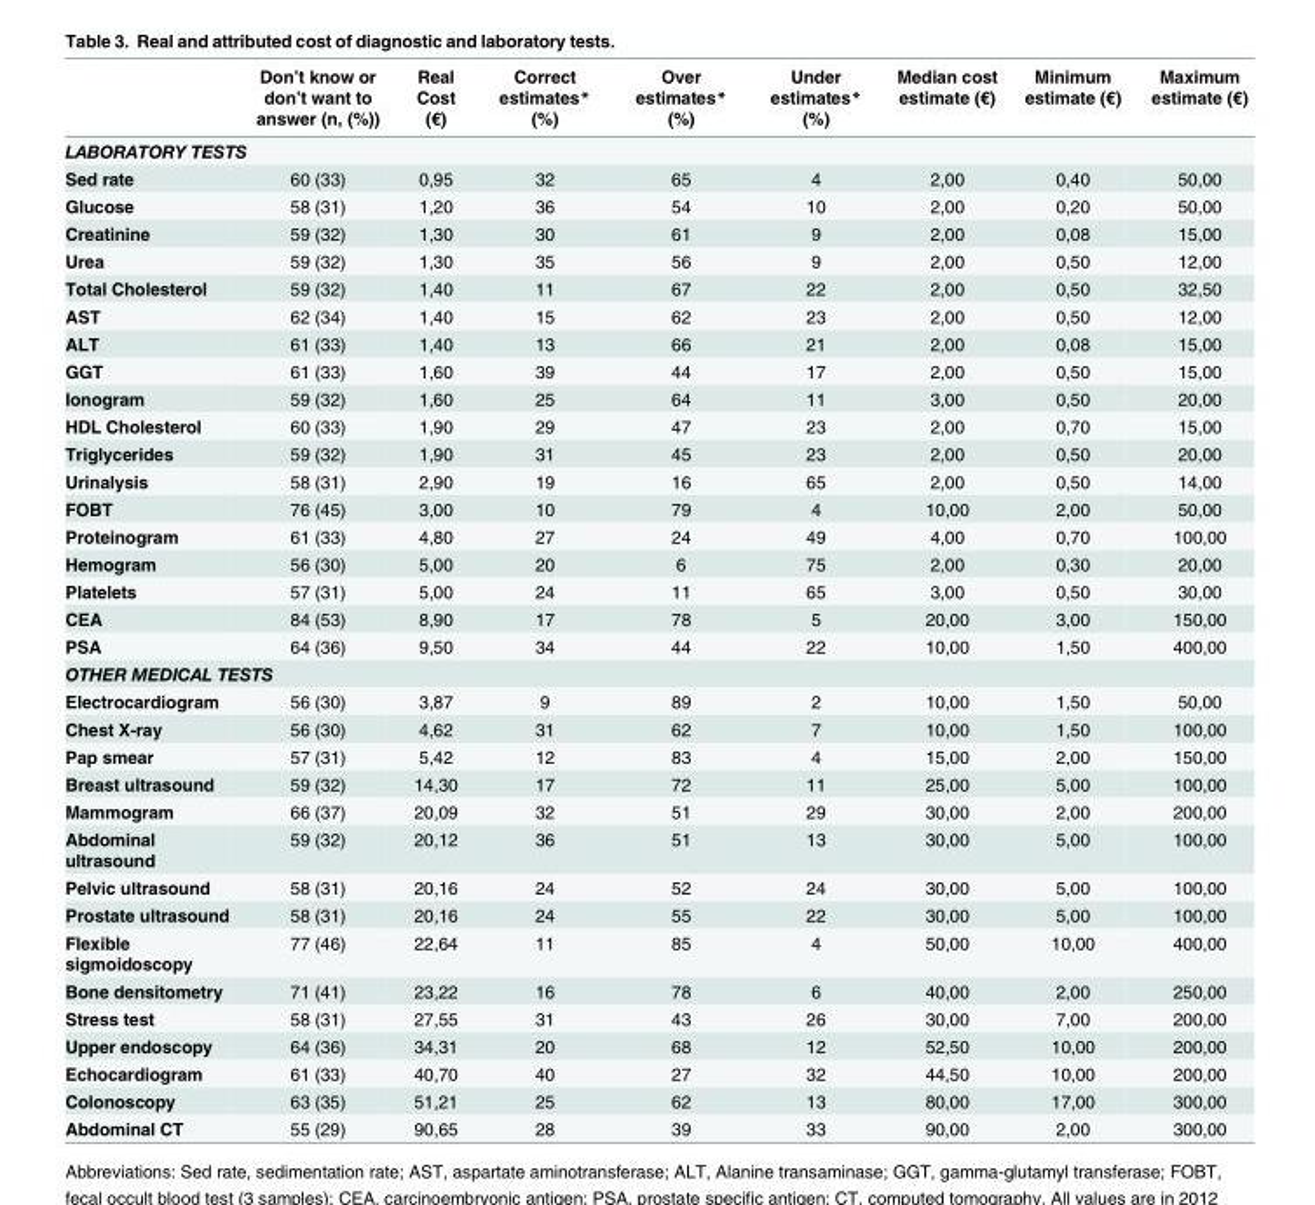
<table><thead><tr><td></td><td>Don’t know or don’t want to answer (n, (%))</td><td>Real Cost (€)</td><td>Correct estimates* (%)</td><td>Over estimates* (%)</td><td>Under estimates* (%)</td><td>Median cost estimate (€)</td><td>Minimum estimate (€)</td><td>Maximum estimate (€)</td></tr></thead><tbody><tr><td colspan="9">LABORATORY TESTS</td></tr><tr><td>Sed rate</td><td>60 (33)</td><td>0,95</td><td>32</td><td>65</td><td>4</td><td>2,00</td><td>0,40</td><td>50,00</td></tr><tr><td>Glucose</td><td>58 (31)</td><td>1,20</td><td>36</td><td>54</td><td>10</td><td>2,00</td><td>0,20</td><td>50,00</td></tr><tr><td>Creatinine</td><td>59 (32)</td><td>1,30</td><td>30</td><td>61</td><td>9</td><td>2,00</td><td>0,08</td><td>15,00</td></tr><tr><td>Urea</td><td>59 (32)</td><td>1,30</td><td>35</td><td>56</td><td>9</td><td>2,00</td><td>0,50</td><td>12,00</td></tr><tr><td>Total Cholesterol</td><td>59 (32)</td><td>1,40</td><td>11</td><td>67</td><td>22</td><td>2,00</td><td>0,50</td><td>32,50</td></tr><tr><td>AST</td><td>62 (34)</td><td>1,40</td><td>15</td><td>62</td><td>23</td><td>2,00</td><td>0,50</td><td>12,00</td></tr><tr><td>ALT</td><td>61 (33)</td><td>1,40</td><td>13</td><td>66</td><td>21</td><td>2,00</td><td>0,08</td><td>15,00</td></tr><tr><td>GGT</td><td>61 (33)</td><td>1,60</td><td>39</td><td>44</td><td>17</td><td>2,00</td><td>0,50</td><td>15,00</td></tr><tr><td>Ionogram</td><td>59 (32)</td><td>1,60</td><td>25</td><td>64</td><td>11</td><td>3,00</td><td>0,50</td><td>20,00</td></tr><tr><td>HDL Cholesterol</td><td>60 (33)</td><td>1,90</td><td>29</td><td>47</td><td>23</td><td>2,00</td><td>0,70</td><td>15,00</td></tr><tr><td>Triglycerides</td><td>59 (32)</td><td>1,90</td><td>31</td><td>45</td><td>23</td><td>2,00</td><td>0,50</td><td>20,00</td></tr><tr><td>Urinalysis</td><td>58 (31)</td><td>2,90</td><td>19</td><td>16</td><td>65</td><td>2,00</td><td>0,50</td><td>14,00</td></tr><tr><td>FOBT</td><td>76 (45)</td><td>3,00</td><td>10</td><td>79</td><td>4</td><td>10,00</td><td>2,00</td><td>50,00</td></tr><tr><td>Proteinogram</td><td>61 (33)</td><td>4,80</td><td>27</td><td>24</td><td>49</td><td>4,00</td><td>0,70</td><td>100,00</td></tr><tr><td>Hemogram</td><td>56 (30)</td><td>5,00</td><td>20</td><td>6</td><td>75</td><td>2,00</td><td>0,30</td><td>20,00</td></tr><tr><td>Platelets</td><td>57 (31)</td><td>5,00</td><td>24</td><td>11</td><td>65</td><td>3,00</td><td>0,50</td><td>30,00</td></tr><tr><td>CEA</td><td>84 (53)</td><td>8,90</td><td>17</td><td>78</td><td>5</td><td>20,00</td><td>3,00</td><td>150,00</td></tr><tr><td>PSA</td><td>64 (36)</td><td>9,50</td><td>34</td><td>44</td><td>22</td><td>10,00</td><td>1,50</td><td>400,00</td></tr><tr><td colspan="9">OTHER MEDICAL TESTS</td></tr><tr><td>Electrocardiogram</td><td>56 (30)</td><td>3,87</td><td>9</td><td>89</td><td>2</td><td>10,00</td><td>1,50</td><td>50,00</td></tr><tr><td>Chest X-ray</td><td>56 (30)</td><td>4,62</td><td>31</td><td>62</td><td>7</td><td>10,00</td><td>1,50</td><td>100,00</td></tr><tr><td>Pap smear</td><td>57 (31)</td><td>5,42</td><td>12</td><td>83</td><td>4</td><td>15,00</td><td>2,00</td><td>150,00</td></tr><tr><td>Breast ultrasound</td><td>59 (32)</td><td>14,30</td><td>17</td><td>72</td><td>11</td><td>25,00</td><td>5,00</td><td>100,00</td></tr><tr><td>Mammogram</td><td>66 (37)</td><td>20,09</td><td>32</td><td>51</td><td>29</td><td>30,00</td><td>2,00</td><td>200,00</td></tr><tr><td>Abdominal ultrasound</td><td>59 (32)</td><td>20,12</td><td>36</td><td>51</td><td>13</td><td>30,00</td><td>5,00</td><td>100,00</td></tr><tr><td>Pelvic ultrasound</td><td>58 (31)</td><td>20,16</td><td>24</td><td>52</td><td>24</td><td>30,00</td><td>5,00</td><td>100,00</td></tr><tr><td>Prostate ultrasound</td><td>58 (31)</td><td>20,16</td><td>24</td><td>55</td><td>22</td><td>30,00</td><td>5,00</td><td>100,00</td></tr><tr><td>Flexible sigmoidoscopy</td><td>77 (46)</td><td>22,64</td><td>11</td><td>85</td><td>4</td><td>50,00</td><td>10,00</td><td>400,00</td></tr><tr><td>Bone densitometry</td><td>71 (41)</td><td>23,22</td><td>16</td><td>78</td><td>6</td><td>40,00</td><td>2,00</td><td>250,00</td></tr><tr><td>Stress test</td><td>58 (31)</td><td>27,55</td><td>31</td><td>43</td><td>26</td><td>30,00</td><td>7,00</td><td>200,00</td></tr><tr><td>Upper endoscopy</td><td>64 (36)</td><td>34,31</td><td>20</td><td>68</td><td>12</td><td>52,50</td><td>10,00</td><td>200,00</td></tr><tr><td>Echocardiogram</td><td>61 (33)</td><td>40,70</td><td>40</td><td>27</td><td>32</td><td>44,50</td><td>10,00</td><td>200,00</td></tr><tr><td>Colonoscopy</td><td>63 (35)</td><td>51,21</td><td>25</td><td>62</td><td>13</td><td>80,00</td><td>17,00</td><td>300,00</td></tr><tr><td>Abdominal CT</td><td>55 (29)</td><td>90,65</td><td>28</td><td>39</td><td>33</td><td>90,00</td><td>2,00</td><td>300,00</td></tr></tbody></table>